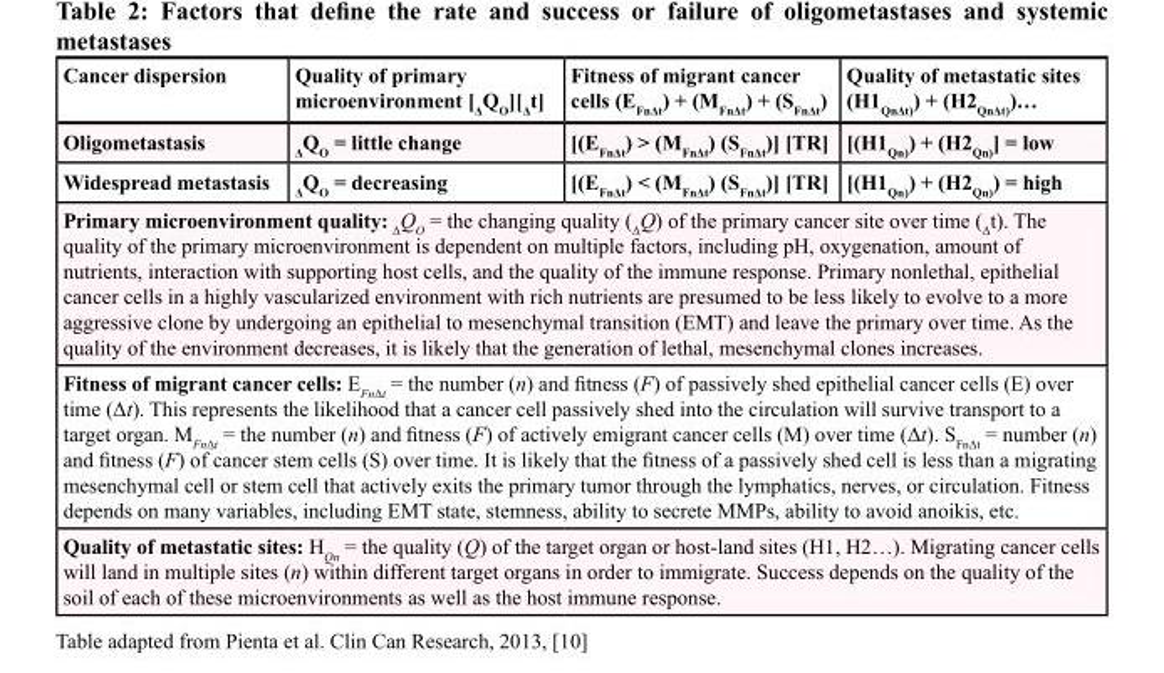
<table><tbody><tr><td>Cancer dispersion</td><td>Quality of primary microenvironment [<sub>Δ</sub>Q<sub>O</sub>][<sub>Δ</sub>t]</td><td>Fitness of migrant cancer cells (E<sub>FnΔt</sub>) + (M<sub>FnΔt</sub>) + (S<sub>FnΔt</sub>)</td><td>Quality of metastatic sites (H1<sub>QnΔt)</sub>) + (H2<sub>QnΔt)</sub>)…</td></tr><tr><td>Oligometastasis</td><td><sub>Δ</sub>Q<sub>O</sub> = little change</td><td>[(E<sub>FnΔt</sub>) &gt; (M<sub>FnΔt</sub>) (S<sub>FnΔt</sub>)] [TR]</td><td>[(H1<sub>Qn)</sub>) + (H2<sub>Qn)</sub>] = low</td></tr><tr><td>Widespread metastasis</td><td><sub>Δ</sub>Q<sub>O</sub> = decreasing</td><td>[(E<sub>FnΔt</sub>) &lt; (M<sub>FnΔt</sub>) (S<sub>FnΔt</sub>)] [TR]</td><td>[(H1<sub>Qn)</sub>) + (H2<sub>Qn)</sub>) = high</td></tr><tr><td colspan="4">Primary microenvironment quality: <sub>Δ</sub>Q<sub>O</sub> = the changing quality (<sub>Δ</sub>Q) of the primary cancer site over time (<sub>Δ</sub>t). The quality of the primary microenvironment is dependent on multiple factors, including pH, oxygenation, amount of nutrients, interaction with supporting host cells, and the quality of the immune response. Primary nonlethal, epithelial cancer cells in a highly vascularized environment with rich nutrients are presumed to be less likely to evolve to a more aggressive clone by undergoing an epithelial to mesenchymal transition (EMT) and leave the primary over time. As the quality of the environment decreases, it is likely that the generation of lethal, mesenchymal clones increases.</td></tr><tr><td colspan="4">Fitness of migrant cancer cells: E<sub>FnΔt</sub> = the number (n) and fitness (F) of passively shed epithelial cancer cells (E) over time (Δt). This represents the likelihood that a cancer cell passively shed into the circulation will survive transport to a target organ. M<sub>FnΔt</sub> = the number (n) and fitness (F) of actively emigrant cancer cells (M) over time (Δt). S<sub>FnΔt</sub> = number (n) and fitness (F) of cancer stem cells (S) over time. It is likely that the fitness of a passively shed cell is less than a migrating mesenchymal cell or stem cell that actively exits the primary tumor through the lymphatics, nerves, or circulation. Fitness depends on many variables, including EMT state, stemness, ability to secrete MMPs, ability to avoid anoikis, etc.</td></tr><tr><td colspan="4">Quality of metastatic sites: H<sub>Qn</sub> = the quality (Q) of the target organ or host-land sites (H1, H2…). Migrating cancer cells will land in multiple sites (n) within different target organs in order to immigrate. Success depends on the quality of the soil of each of these microenvironments as well as the host immune response.</td></tr></tbody></table>